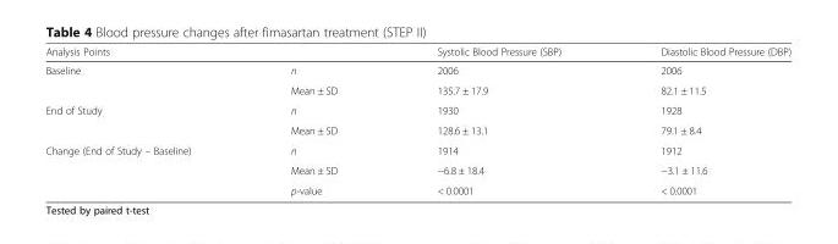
<table><thead><tr><td>Analysis Points</td><td></td><td>Systolic Blood Pressure (SBP)</td><td>Diastolic Blood Pressure (DBP)</td></tr></thead><tbody><tr><td rowspan="2">Baseline</td><td>n</td><td>2006</td><td>2006</td></tr><tr><td>Mean ± SD</td><td>135.7 ± 17.9</td><td>82.1 ± 11.5</td></tr><tr><td rowspan="2">End of Study</td><td>n</td><td>1930</td><td>1928</td></tr><tr><td>Mean ± SD</td><td>128.6 ± 13.1</td><td>79.1 ± 8.4</td></tr><tr><td rowspan="3">Change (End of Study – Baseline)</td><td>n</td><td>1914</td><td>1912</td></tr><tr><td>Mean ± SD</td><td>−6.8 ± 18.4</td><td>−3.1 ± 11.6</td></tr><tr><td>p-value</td><td>&lt; 0.0001</td><td>&lt; 0.0001</td></tr></tbody></table>